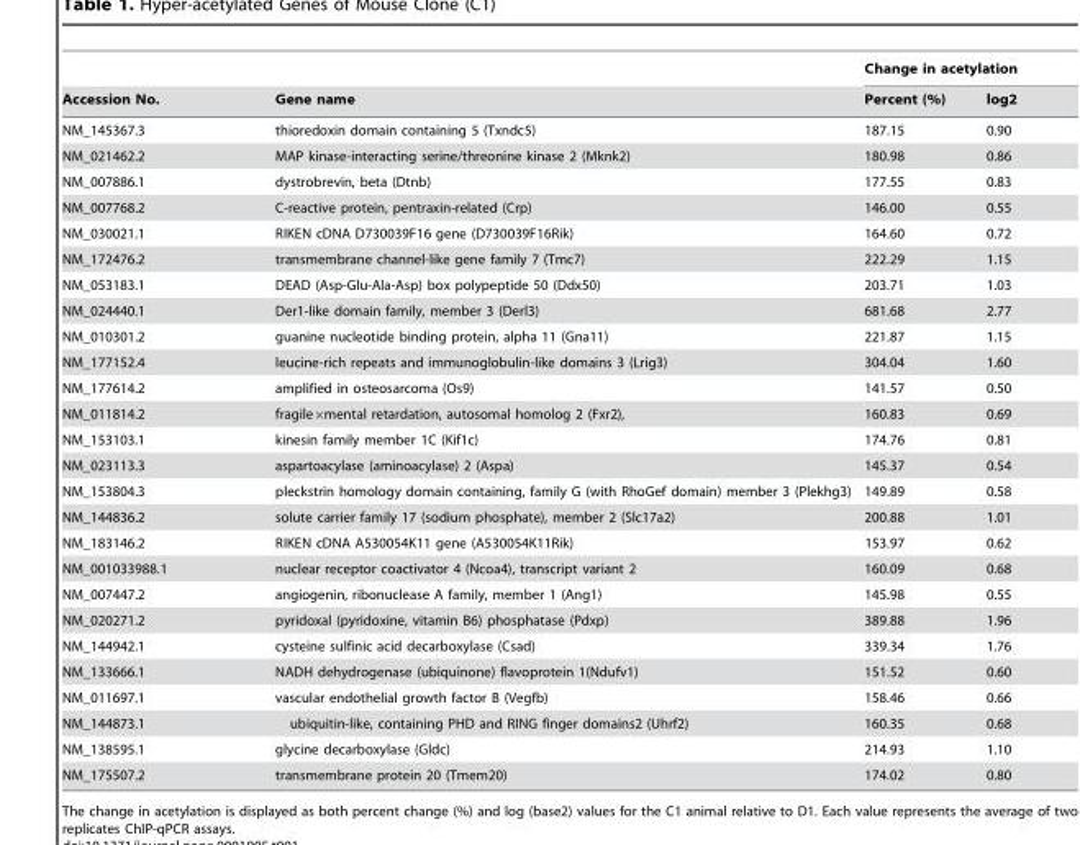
<table><thead><tr><td rowspan="2">Accession No.</td><td rowspan="2">Gene name</td><td colspan="2">Change in acetylation</td></tr><tr><td>Percent (%)</td><td>log2</td></tr></thead><tbody><tr><td>NM_145367.3</td><td>thioredoxin domain containing 5 (Txndc5)</td><td>187.15</td><td>0.90</td></tr><tr><td>NM_021462.2</td><td>MAP kinase-interacting serine/threonine kinase 2 (Mknk2)</td><td>180.98</td><td>0.86</td></tr><tr><td>NM_007886.1</td><td>dystrobrevin, beta (Dtnb)</td><td>177.55</td><td>0.83</td></tr><tr><td>NM_007768.2</td><td>C-reactive protein, pentraxin-related (Crp)</td><td>146.00</td><td>0.55</td></tr><tr><td>NM_030021.1</td><td>RIKEN cDNA D730039F16 gene (D730039F16Rik)</td><td>164.60</td><td>0.72</td></tr><tr><td>NM_172476.2</td><td>transmembrane channel-like gene family 7 (Tmc7)</td><td>222.29</td><td>1.15</td></tr><tr><td>NM_053183.1</td><td>DEAD (Asp-Glu-Ala-Asp) box polypeptide 50 (Ddx50)</td><td>203.71</td><td>1.03</td></tr><tr><td>NM_024440.1</td><td>Der1-like domain family, member 3 (Derl3)</td><td>681.68</td><td>2.77</td></tr><tr><td>NM_010301.2</td><td>guanine nucleotide binding protein, alpha 11 (Gna11)</td><td>221.87</td><td>1.15</td></tr><tr><td>NM_177152.4</td><td>leucine-rich repeats and immunoglobulin-like domains 3 (Lrig3)</td><td>304.04</td><td>1.60</td></tr><tr><td>NM_177614.2</td><td>amplified in osteosarcoma (Os9)</td><td>141.57</td><td>0.50</td></tr><tr><td>NM_011814.2</td><td>fragile×mental retardation, autosomal homolog 2 (Fxr2),</td><td>160.83</td><td>0.69</td></tr><tr><td>NM_153103.1</td><td>kinesin family member 1C (Kif1c)</td><td>174.76</td><td>0.81</td></tr><tr><td>NM_023113.3</td><td>aspartoacylase (aminoacylase) 2 (Aspa)</td><td>145.37</td><td>0.54</td></tr><tr><td>NM_153804.3</td><td>pleckstrin homology domain containing, family G (with RhoGef domain) member 3 (Plekhg3)</td><td>149.89</td><td>0.58</td></tr><tr><td>NM_144836.2</td><td>solute carrier family 17 (sodium phosphate), member 2 (Slc17a2)</td><td>200.88</td><td>1.01</td></tr><tr><td>NM_183146.2</td><td>RIKEN cDNA A530054K11 gene (A530054K11Rik)</td><td>153.97</td><td>0.62</td></tr><tr><td>NM_001033988.1</td><td>nuclear receptor coactivator 4 (Ncoa4), transcript variant 2</td><td>160.09</td><td>0.68</td></tr><tr><td>NM_007447.2</td><td>angiogenin, ribonuclease A family, member 1 (Ang1)</td><td>145.98</td><td>0.55</td></tr><tr><td>NM_020271.2</td><td>pyridoxal (pyridoxine, vitamin B6) phosphatase (Pdxp)</td><td>389.88</td><td>1.96</td></tr><tr><td>NM_144942.1</td><td>cysteine sulfinic acid decarboxylase (Csad)</td><td>339.34</td><td>1.76</td></tr><tr><td>NM_133666.1</td><td>NADH dehydrogenase (ubiquinone) flavoprotein 1(Ndufv1)</td><td>151.52</td><td>0.60</td></tr><tr><td>NM_011697.1</td><td>vascular endothelial growth factor B (Vegfb)</td><td>158.46</td><td>0.66</td></tr><tr><td>NM_144873.1</td><td>ubiquitin-like, containing PHD and RING finger domains2 (Uhrf2)</td><td>160.35</td><td>0.68</td></tr><tr><td>NM_138595.1</td><td>glycine decarboxylase (Gldc)</td><td>214.93</td><td>1.10</td></tr><tr><td>NM_175507.2</td><td>transmembrane protein 20 (Tmem20)</td><td>174.02</td><td>0.80</td></tr></tbody></table>